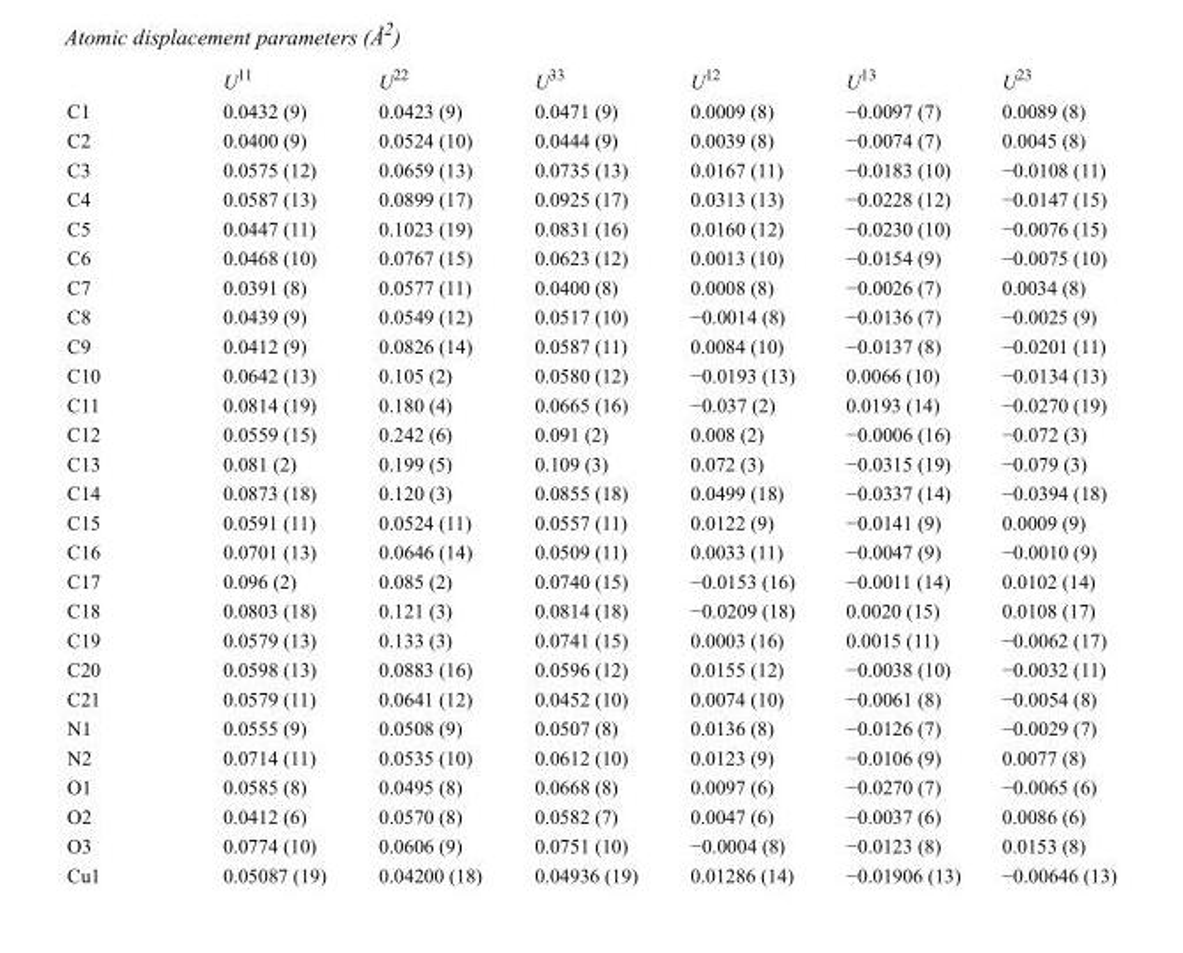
<table><thead><tr><td></td><td>U<sup>11</sup></td><td>U<sup>22</sup></td><td>U<sup>33</sup></td><td>U<sup>12</sup></td><td>U<sup>13</sup></td><td>U<sup>23</sup></td></tr></thead><tbody><tr><td>C1</td><td>0.0432 (9)</td><td>0.0423 (9)</td><td>0.0471 (9)</td><td>0.0009 (8)</td><td>−0.0097 (7)</td><td>0.0089 (8)</td></tr><tr><td>C2</td><td>0.0400 (9)</td><td>0.0524 (10)</td><td>0.0444 (9)</td><td>0.0039 (8)</td><td>−0.0074 (7)</td><td>0.0045 (8)</td></tr><tr><td>C3</td><td>0.0575 (12)</td><td>0.0659 (13)</td><td>0.0735 (13)</td><td>0.0167 (11)</td><td>−0.0183 (10)</td><td>−0.0108 (11)</td></tr><tr><td>C4</td><td>0.0587 (13)</td><td>0.0899 (17)</td><td>0.0925 (17)</td><td>0.0313 (13)</td><td>−0.0228 (12)</td><td>−0.0147 (15)</td></tr><tr><td>C5</td><td>0.0447 (11)</td><td>0.1023 (19)</td><td>0.0831 (16)</td><td>0.0160 (12)</td><td>−0.0230 (10)</td><td>−0.0076 (15)</td></tr><tr><td>C6</td><td>0.0468 (10)</td><td>0.0767 (15)</td><td>0.0623 (12)</td><td>0.0013 (10)</td><td>−0.0154 (9)</td><td>−0.0075 (10)</td></tr><tr><td>C7</td><td>0.0391 (8)</td><td>0.0577 (11)</td><td>0.0400 (8)</td><td>0.0008 (8)</td><td>−0.0026 (7)</td><td>0.0034 (8)</td></tr><tr><td>C8</td><td>0.0439 (9)</td><td>0.0549 (12)</td><td>0.0517 (10)</td><td>−0.0014 (8)</td><td>−0.0136 (7)</td><td>−0.0025 (9)</td></tr><tr><td>C9</td><td>0.0412 (9)</td><td>0.0826 (14)</td><td>0.0587 (11)</td><td>0.0084 (10)</td><td>−0.0137 (8)</td><td>−0.0201 (11)</td></tr><tr><td>C10</td><td>0.0642 (13)</td><td>0.105 (2)</td><td>0.0580 (12)</td><td>−0.0193 (13)</td><td>0.0066 (10)</td><td>−0.0134 (13)</td></tr><tr><td>C11</td><td>0.0814 (19)</td><td>0.180 (4)</td><td>0.0665 (16)</td><td>−0.037 (2)</td><td>0.0193 (14)</td><td>−0.0270 (19)</td></tr><tr><td>C12</td><td>0.0559 (15)</td><td>0.242 (6)</td><td>0.091 (2)</td><td>0.008 (2)</td><td>−0.0006 (16)</td><td>−0.072 (3)</td></tr><tr><td>C13</td><td>0.081 (2)</td><td>0.199 (5)</td><td>0.109 (3)</td><td>0.072 (3)</td><td>−0.0315 (19)</td><td>−0.079 (3)</td></tr><tr><td>C14</td><td>0.0873 (18)</td><td>0.120 (3)</td><td>0.0855 (18)</td><td>0.0499 (18)</td><td>−0.0337 (14)</td><td>−0.0394 (18)</td></tr><tr><td>C15</td><td>0.0591 (11)</td><td>0.0524 (11)</td><td>0.0557 (11)</td><td>0.0122 (9)</td><td>−0.0141 (9)</td><td>0.0009 (9)</td></tr><tr><td>C16</td><td>0.0701 (13)</td><td>0.0646 (14)</td><td>0.0509 (11)</td><td>0.0033 (11)</td><td>−0.0047 (9)</td><td>−0.0010 (9)</td></tr><tr><td>C17</td><td>0.096 (2)</td><td>0.085 (2)</td><td>0.0740 (15)</td><td>−0.0153 (16)</td><td>−0.0011 (14)</td><td>0.0102 (14)</td></tr><tr><td>C18</td><td>0.0803 (18)</td><td>0.121 (3)</td><td>0.0814 (18)</td><td>−0.0209 (18)</td><td>0.0020 (15)</td><td>0.0108 (17)</td></tr><tr><td>C19</td><td>0.0579 (13)</td><td>0.133 (3)</td><td>0.0741 (15)</td><td>0.0003 (16)</td><td>0.0015 (11)</td><td>−0.0062 (17)</td></tr><tr><td>C20</td><td>0.0598 (13)</td><td>0.0883 (16)</td><td>0.0596 (12)</td><td>0.0155 (12)</td><td>−0.0038 (10)</td><td>−0.0032 (11)</td></tr><tr><td>C21</td><td>0.0579 (11)</td><td>0.0641 (12)</td><td>0.0452 (10)</td><td>0.0074 (10)</td><td>−0.0061 (8)</td><td>−0.0054 (8)</td></tr><tr><td>N1</td><td>0.0555 (9)</td><td>0.0508 (9)</td><td>0.0507 (8)</td><td>0.0136 (8)</td><td>−0.0126 (7)</td><td>−0.0029 (7)</td></tr><tr><td>N2</td><td>0.0714 (11)</td><td>0.0535 (10)</td><td>0.0612 (10)</td><td>0.0123 (9)</td><td>−0.0106 (9)</td><td>0.0077 (8)</td></tr><tr><td>O1</td><td>0.0585 (8)</td><td>0.0495 (8)</td><td>0.0668 (8)</td><td>0.0097 (6)</td><td>−0.0270 (7)</td><td>−0.0065 (6)</td></tr><tr><td>O2</td><td>0.0412 (6)</td><td>0.0570 (8)</td><td>0.0582 (7)</td><td>0.0047 (6)</td><td>−0.0037 (6)</td><td>0.0086 (6)</td></tr><tr><td>O3</td><td>0.0774 (10)</td><td>0.0606 (9)</td><td>0.0751 (10)</td><td>−0.0004 (8)</td><td>−0.0123 (8)</td><td>0.0153 (8)</td></tr><tr><td>Cu1</td><td>0.05087 (19)</td><td>0.04200 (18)</td><td>0.04936 (19)</td><td>0.01286 (14)</td><td>−0.01906 (13)</td><td>−0.00646 (13)</td></tr></tbody></table>